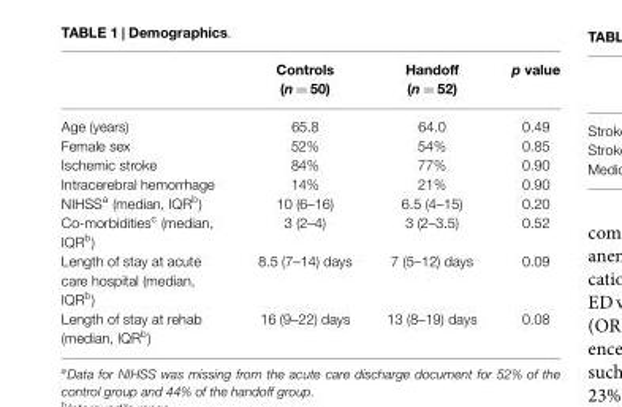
<table><thead><tr><td></td><td>Controls (n = 50)</td><td>Handoff (n = 52)</td><td>p value</td></tr></thead><tbody><tr><td>Age (years)</td><td>65.8</td><td>64.0</td><td>0.49</td></tr><tr><td>Female sex</td><td>52%</td><td>54%</td><td>0.85</td></tr><tr><td>Ischemic stroke</td><td>84%</td><td>77%</td><td>0.90</td></tr><tr><td>Intracerebral hemorrhage</td><td>14%</td><td>21%</td><td>0.90</td></tr><tr><td>NIHSS<sup>a</sup> (median, IQR<sup>b</sup>)</td><td>10 (6–16)</td><td>6.5 (4–15)</td><td>0.20</td></tr><tr><td>Co-morbidities<sup>c</sup> (median, IQR<sup>b</sup>)</td><td>3 (2–4)</td><td>3 (2–3.5)</td><td>0.52</td></tr><tr><td>Length of stay at acute care hospital (median, IQR<sup>b</sup>)</td><td>8.5 (7–14) days</td><td>7 (5–12) days</td><td>0.09</td></tr><tr><td>Length of stay at rehab (median, IQR<sup>b</sup>)</td><td>16 (9–22) days</td><td>13 (8–19) days</td><td>0.08</td></tr></tbody></table>